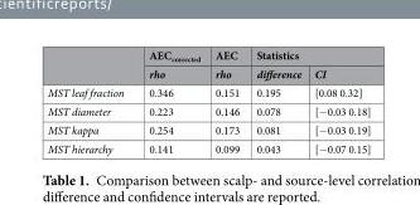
<table><thead><tr><td rowspan="2"></td><td rowspan="2">AEC<sub>corrected</sub> rho</td><td rowspan="2">AEC rho</td><td colspan="2">Statistics</td></tr><tr><td>difference</td><td>CI</td></tr></thead><tbody><tr><td>MST leaf fraction</td><td>0.346</td><td>0.151</td><td>0.195</td><td>[0.08 0.32]</td></tr><tr><td>MST diameter</td><td>0.223</td><td>0.146</td><td>0.078</td><td>[−0.03 0.18]</td></tr><tr><td>MST kappa</td><td>0.254</td><td>0.173</td><td>0.081</td><td>[−0.03 0.19]</td></tr><tr><td>MST hierarchy</td><td>0.141</td><td>0.099</td><td>0.043</td><td>[−0.07 0.15]</td></tr></tbody></table>